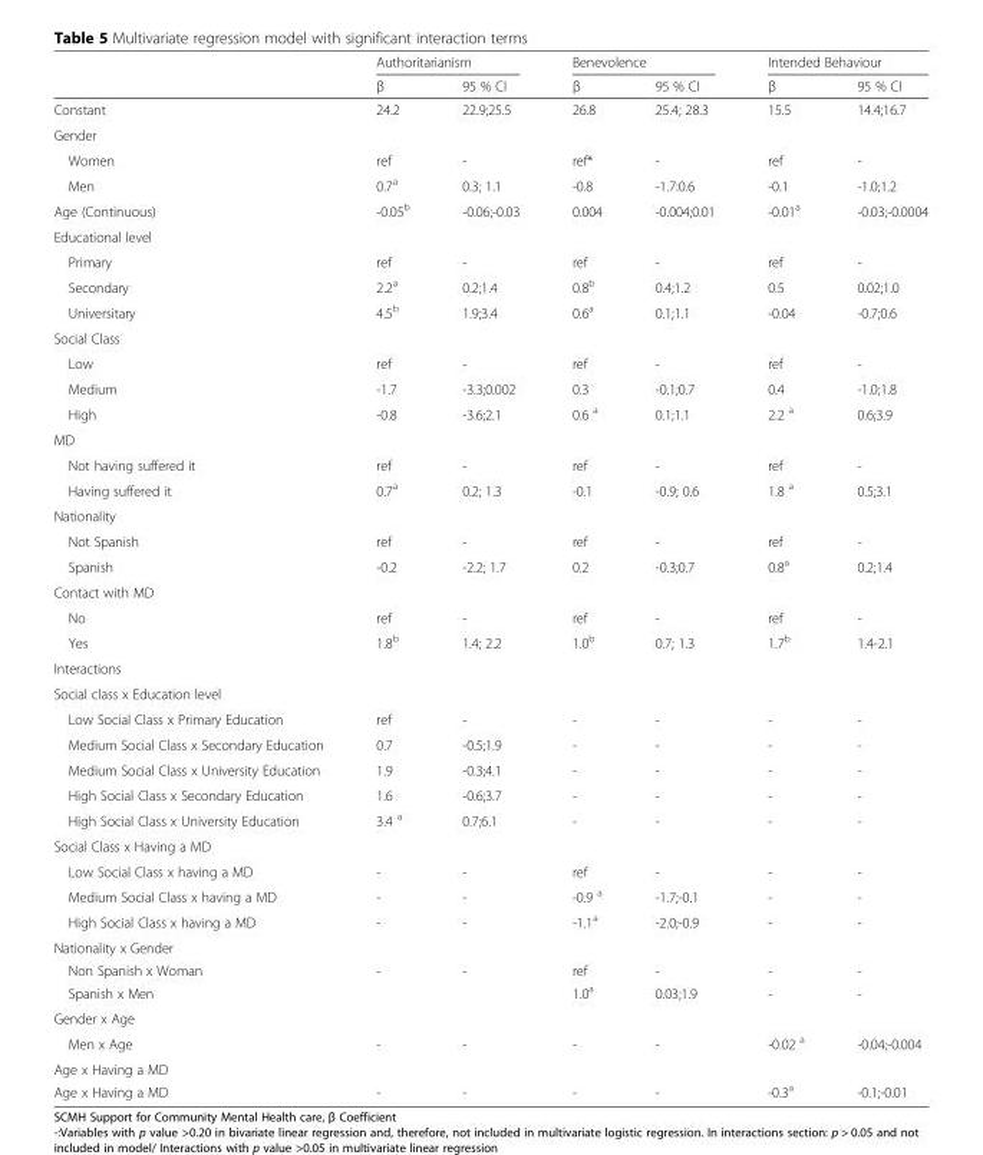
<table><thead><tr><td rowspan="2"></td><td colspan="2">Authoritarianism</td><td colspan="2">Benevolence</td><td colspan="2">Intended Behaviour</td></tr><tr><td>β</td><td>95 % CI</td><td>β</td><td>95 % CI</td><td>β</td><td>95 % CI</td></tr></thead><tbody><tr><td>Constant</td><td>24.2</td><td>22.9;25.5</td><td>26.8</td><td>25.4; 28.3</td><td>15.5</td><td>14.4;16.7</td></tr><tr><td colspan="7">Gender</td></tr><tr><td>Women</td><td>ref</td><td>-</td><td>ref*</td><td>-</td><td>ref</td><td>-</td></tr><tr><td>Men</td><td>0.7<sup>a</sup></td><td>0.3; 1.1</td><td>-0.8</td><td>-1.7:0.6</td><td>-0.1</td><td>-1.0;1.2</td></tr><tr><td>Age (Continuous)</td><td>-0.05<sup>b</sup></td><td>-0.06;-0.03</td><td>0.004</td><td>-0.004;0.01</td><td>-0.01<sup>a</sup></td><td>-0.03;-0.0004</td></tr><tr><td colspan="7">Educational level</td></tr><tr><td>Primary</td><td>ref</td><td>-</td><td>ref</td><td>-</td><td>ref</td><td>-</td></tr><tr><td>Secondary</td><td>2.2<sup>a</sup></td><td>0.2;1.4</td><td>0.8<sup>b</sup></td><td>0.4;1.2</td><td>0.5</td><td>0.02;1.0</td></tr><tr><td>Universitary</td><td>4.5<sup>b</sup></td><td>1.9;3.4</td><td>0.6<sup>a</sup></td><td>0.1;1.1</td><td>-0.04</td><td>-0.7;0.6</td></tr><tr><td colspan="7">Social Class</td></tr><tr><td>Low</td><td>ref</td><td>-</td><td>ref</td><td>-</td><td>ref</td><td>-</td></tr><tr><td>Medium</td><td>-1.7</td><td>-3.3;0.002</td><td>0.3</td><td>-0.1;0.7</td><td>0.4</td><td>-1.0;1.8</td></tr><tr><td>High</td><td>-0.8</td><td>-3.6;2.1</td><td>0.6 <sup>a</sup></td><td>0.1;1.1</td><td>2.2 <sup>a</sup></td><td>0.6;3.9</td></tr><tr><td colspan="7">MD</td></tr><tr><td>Not having suffered it</td><td>ref</td><td>-</td><td>ref</td><td>-</td><td>ref</td><td>-</td></tr><tr><td>Having suffered it</td><td>0.7<sup>a</sup></td><td>0.2; 1.3</td><td>-0.1</td><td>-0.9; 0.6</td><td>1.8 <sup>a</sup></td><td>0.5;3.1</td></tr><tr><td colspan="7">Nationality</td></tr><tr><td>Not Spanish</td><td>ref</td><td>-</td><td>ref</td><td>-</td><td>ref</td><td>-</td></tr><tr><td>Spanish</td><td>-0.2</td><td>-2.2; 1.7</td><td>0.2</td><td>-0.3;0.7</td><td>0.8<sup>a</sup></td><td>0.2;1.4</td></tr><tr><td colspan="7">Contact with MD</td></tr><tr><td>No</td><td>ref</td><td>-</td><td>ref</td><td>-</td><td>ref</td><td>-</td></tr><tr><td>Yes</td><td>1.8<sup>b</sup></td><td>1.4; 2.2</td><td>1.0<sup>b</sup></td><td>0.7; 1.3</td><td>1.7<sup>b</sup></td><td>1.4-2.1</td></tr><tr><td colspan="7">Interactions</td></tr><tr><td colspan="7">Social class x Education level</td></tr><tr><td>Low Social Class x Primary Education</td><td>ref</td><td>-</td><td>-</td><td>-</td><td>-</td><td>-</td></tr><tr><td>Medium Social Class x Secondary Education</td><td>0.7</td><td>-0.5;1.9</td><td>-</td><td>-</td><td>-</td><td>-</td></tr><tr><td>Medium Social Class x University Education</td><td>1.9</td><td>-0.3;4.1</td><td>-</td><td>-</td><td>-</td><td>-</td></tr><tr><td>High Social Class x Secondary Education</td><td>1.6</td><td>-0.6;3.7</td><td>-</td><td>-</td><td>-</td><td>-</td></tr><tr><td>High Social Class x University Education</td><td>3.4 <sup>a</sup></td><td>0.7;6.1</td><td>-</td><td>-</td><td>-</td><td>-</td></tr><tr><td colspan="7">Social Class x Having a MD</td></tr><tr><td>Low Social Class x having a MD</td><td>-</td><td>-</td><td>ref</td><td>-</td><td>-</td><td>-</td></tr><tr><td>Medium Social Class x having a MD</td><td>-</td><td>-</td><td>-0.9 <sup>a</sup></td><td>-1.7;-0.1</td><td>-</td><td>-</td></tr><tr><td>High Social Class x having a MD</td><td>-</td><td>-</td><td>-1.1<sup>a</sup></td><td>-2.0;-0.9</td><td>-</td><td>-</td></tr><tr><td colspan="7">Nationality x Gender</td></tr><tr><td>Non Spanish x Woman</td><td>-</td><td>-</td><td>ref</td><td>-</td><td>-</td><td>-</td></tr><tr><td>Spanish x Men</td><td></td><td></td><td>1.0<sup>a</sup></td><td>0.03;1.9</td><td>-</td><td>-</td></tr><tr><td colspan="7">Gender x Age</td></tr><tr><td>Men x Age</td><td>-</td><td>-</td><td>-</td><td>-</td><td>-0.02 <sup>a</sup></td><td>-0.04;-0.004</td></tr><tr><td colspan="7">Age x Having a MD</td></tr><tr><td>Age x Having a MD</td><td>-</td><td>-</td><td>-</td><td>-</td><td>-0.3<sup>a</sup></td><td>-0.1;-0.01</td></tr></tbody></table>